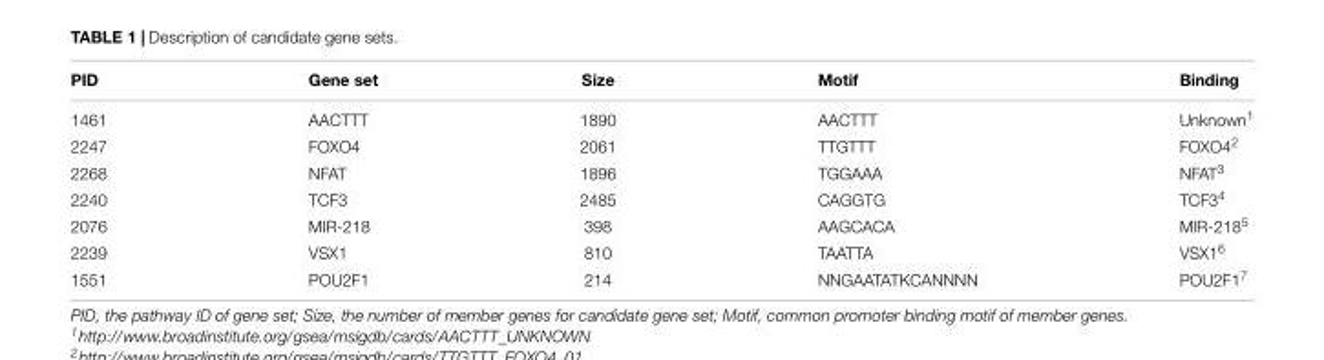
<table><thead><tr><td>PID</td><td>Gene set</td><td>Size</td><td>Motif</td><td>Binding</td></tr></thead><tbody><tr><td>1461</td><td>AACTTT</td><td>1890</td><td>AACTTT</td><td>Unknown<sup>1</sup></td></tr><tr><td>2247</td><td>FOXO4</td><td>2061</td><td>TTGTTT</td><td>FOXO4<sup>2</sup></td></tr><tr><td>2268</td><td>NFAT</td><td>1896</td><td>TGGAAA</td><td>NFAT<sup>3</sup></td></tr><tr><td>2240</td><td>TCF3</td><td>2485</td><td>CAGGTG</td><td>TCF3<sup>4</sup></td></tr><tr><td>2076</td><td>MIR-218</td><td>398</td><td>AAGCACA</td><td>MIR-218<sup>5</sup></td></tr><tr><td>2239</td><td>VSX1</td><td>810</td><td>TAATTA</td><td>VSX1<sup>6</sup></td></tr><tr><td>1551</td><td>POU2F1</td><td>214</td><td>NNGAATATKCANNNN</td><td>POU2F1<sup>7</sup></td></tr></tbody></table>